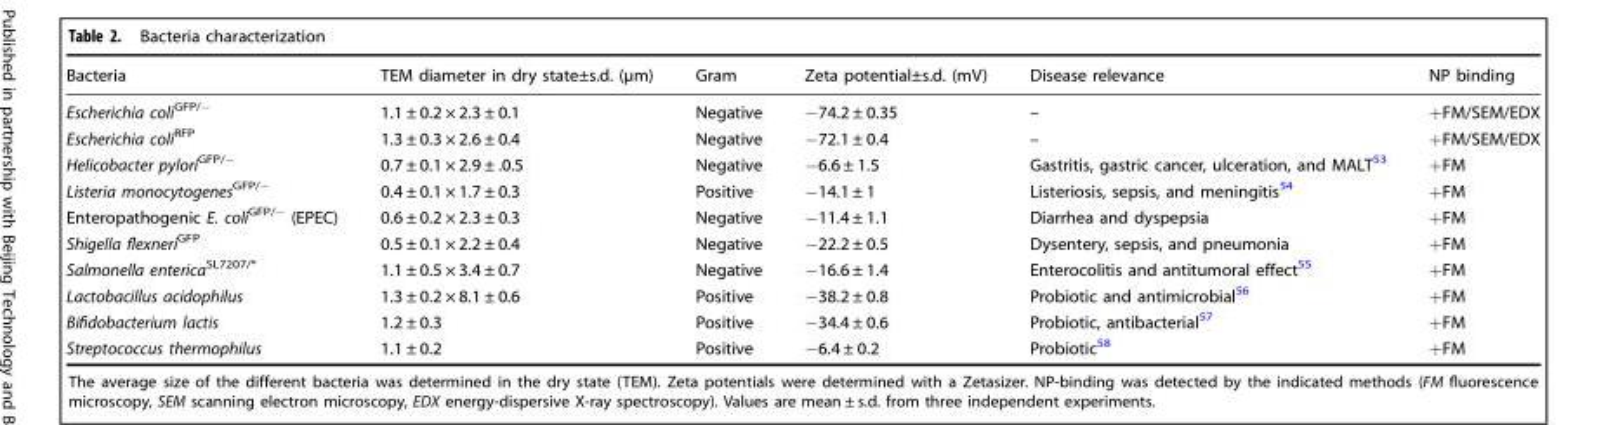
<table><thead><tr><td>Bacteria</td><td>TEM diameter in dry state±s.d. (µm)</td><td>Gram</td><td>Zeta potential±s.d. (mV)</td><td>Disease relevance</td><td>NP binding</td></tr></thead><tbody><tr><td>Escherichia coli<sup>GFP/−</sup></td><td>1.1 ± 0.2 × 2.3 ± 0.1</td><td>Negative</td><td>−74.2 ± 0.35</td><td>–</td><td>+FM/SEM/EDX</td></tr><tr><td>Escherichia coli<sup>RFP</sup></td><td>1.3 ± 0.3 × 2.6 ± 0.4</td><td>Negative</td><td>−72.1 ± 0.4</td><td>–</td><td>+FM/SEM/EDX</td></tr><tr><td>Helicobacter pylori<sup>GFP/−</sup></td><td>0.7 ± 0.1 × 2.9 ± .0.5</td><td>Negative</td><td>−6.6 ± 1.5</td><td>Gastritis, gastric cancer, ulceration, and MALT<sup>53</sup></td><td>+FM</td></tr><tr><td>Listeria monocytogenes<sup>GFP/−</sup></td><td>0.4 ± 0.1 × 1.7 ± 0.3</td><td>Positive</td><td>−14.1 ± 1</td><td>Listeriosis, sepsis, and meningitis<sup>54</sup></td><td>+FM</td></tr><tr><td>Enteropathogenic E. coli<sup>GFP/−</sup> (EPEC)</td><td>0.6 ± 0.2 × 2.3 ± 0.3</td><td>Negative</td><td>−11.4 ± 1.1</td><td>Diarrhea and dyspepsia</td><td>+FM</td></tr><tr><td>Shigella flexneri<sup>GFP</sup></td><td>0.5 ± 0.1 × 2.2 ± 0.4</td><td>Negative</td><td>−22.2 ± 0.5</td><td>Dysentery, sepsis, and pneumonia</td><td>+FM</td></tr><tr><td>Salmonella enterica<sup>SL7207/*</sup></td><td>1.1 ± 0.5 × 3.4 ± 0.7</td><td>Negative</td><td>−16.6 ± 1.4</td><td>Enterocolitis and antitumoral effect<sup>55</sup></td><td>+FM</td></tr><tr><td>Lactobacillus acidophilus</td><td>1.3 ± 0.2 × 8.1 ± 0.6</td><td>Positive</td><td>−38.2 ± 0.8</td><td>Probiotic and antimicrobial<sup>56</sup></td><td>+FM</td></tr><tr><td>Bifidobacterium lactis</td><td>1.2 ± 0.3</td><td>Positive</td><td>−34.4 ± 0.6</td><td>Probiotic, antibacterial<sup>57</sup></td><td>+FM</td></tr><tr><td>Streptococcus thermophilus</td><td>1.1 ± 0.2</td><td>Positive</td><td>−6.4 ± 0.2</td><td>Probiotic<sup>58</sup></td><td>+FM</td></tr></tbody></table>